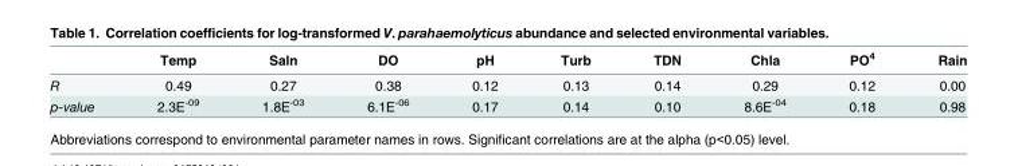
<table><thead><tr><td></td><td>Temp</td><td>Saln</td><td>DO</td><td>pH</td><td>Turb</td><td>TDN</td><td>Chla</td><td>PO<sup>4</sup></td><td>Rain</td></tr></thead><tbody><tr><td>R</td><td>0.49</td><td>0.27</td><td>0.38</td><td>0.12</td><td>0.13</td><td>0.14</td><td>0.29</td><td>0.12</td><td>0.00</td></tr><tr><td>p-value</td><td>2.3E<sup>-09</sup></td><td>1.8E<sup>-03</sup></td><td>6.1E<sup>-06</sup></td><td>0.17</td><td>0.14</td><td>0.10</td><td>8.6E<sup>-04</sup></td><td>0.18</td><td>0.98</td></tr></tbody></table>